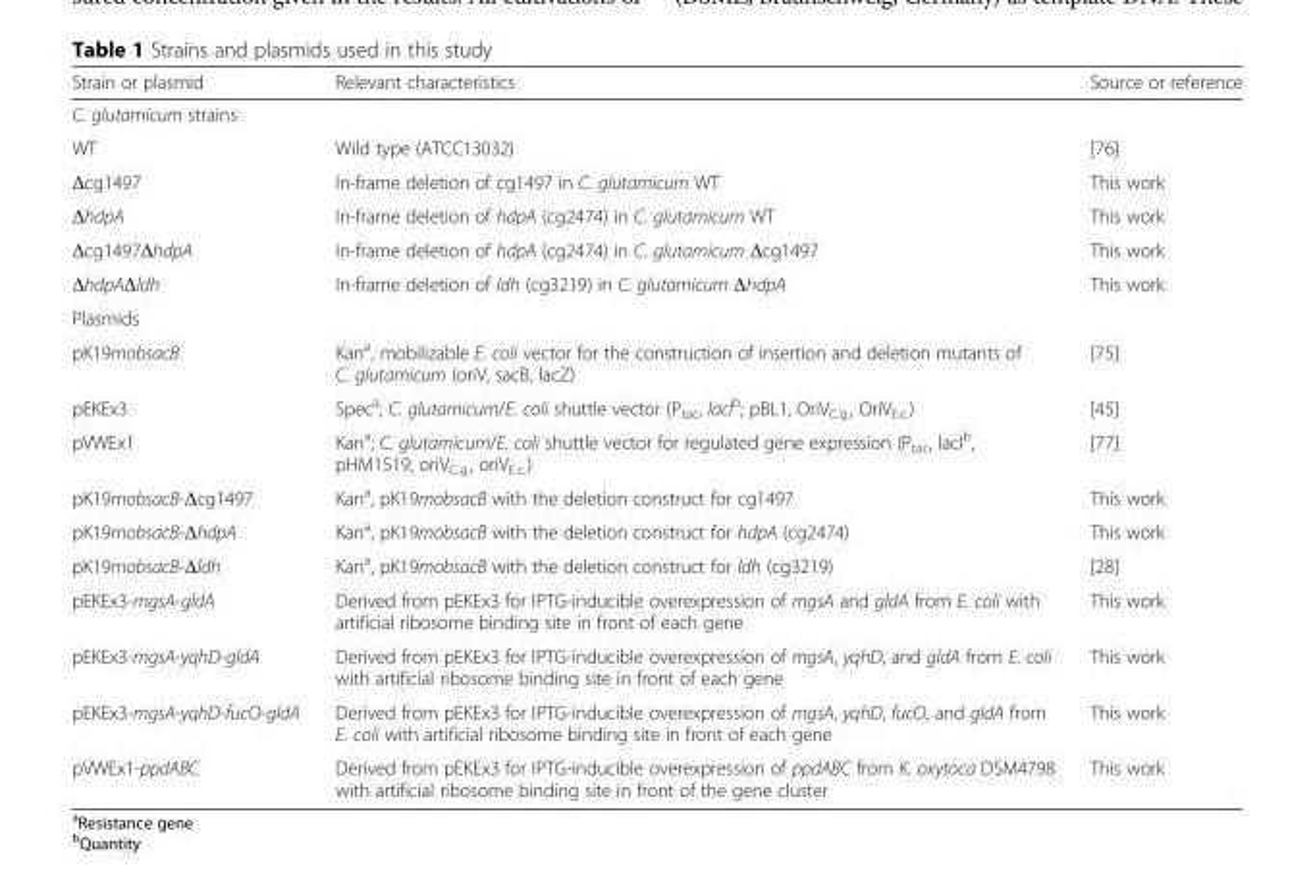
<table><thead><tr><td>Strain or plasmid</td><td>Relevant characteristics</td><td>Source or reference</td></tr></thead><tbody><tr><td colspan="3">C. glutamicum strains</td></tr><tr><td>WT</td><td>Wild type (ATCC13032)</td><td>[76]</td></tr><tr><td>Δcg1497</td><td>In-frame deletion of cg1497 in C. glutamicum WT</td><td>This work</td></tr><tr><td>ΔhdpA</td><td>In-frame deletion of hdpA (cg2474) in C. glutamicum WT</td><td>This work</td></tr><tr><td>Δcg1497ΔhdpA</td><td>In-frame deletion of hdpA (cg2474) in C. glutamicum Δcg1497</td><td>This work</td></tr><tr><td>ΔhdpAΔldh</td><td>In-frame deletion of ldh (cg3219) in C. glutamicum ΔhdpA</td><td>This work</td></tr><tr><td colspan="3">Plasmids</td></tr><tr><td>pK19mobsacB</td><td>Kan<sup>a</sup>, mobilizable E. coli vector for the construction of insertion and deletion mutants of C. glutamicum (oriV, sacB, lacZ)</td><td>[75]</td></tr><tr><td>pEKEx3</td><td>Spec<sup>a</sup>; C. glutamicum/E. coli shuttle vector (P<sub>tac</sub>, lacI<sup>b</sup>; pBL1, OriV<sub>C.g.</sub>, OriV<sub>E.c.</sub>)</td><td>[45]</td></tr><tr><td>pVWEx1</td><td>Kan<sup>a</sup>; C. glutamicum/E. coli shuttle vector for regulated gene expression (P<sub>tac</sub>, lacI<sup>b</sup>, pHM1519, oriV<sub>C.g.</sub>, oriV<sub>E.c.</sub>)</td><td>[77]</td></tr><tr><td>pK19mobsacB-Δcg1497</td><td>Kan<sup>a</sup>, pK19mobsacB with the deletion construct for cg1497</td><td>This work</td></tr><tr><td>pK19mobsacB-ΔhdpA</td><td>Kan<sup>a</sup>, pK19mobsacB with the deletion construct for hdpA (cg2474)</td><td>This work</td></tr><tr><td>pK19mobsacB-Δldh</td><td>Kan<sup>a</sup>, pK19mobsacB with the deletion construct for ldh (cg3219)</td><td>[28]</td></tr><tr><td>pEKEx3-mgsA-gldA</td><td>Derived from pEKEx3 for IPTG-inducible overexpression of mgsA and gldA from E. coli with artificial ribosome binding site in front of each gene</td><td>This work</td></tr><tr><td>pEKEx3-mgsA-yqhD-gldA</td><td>Derived from pEKEx3 for IPTG-inducible overexpression of mgsA, yqhD, and gldA from E. coli with artificial ribosome binding site in front of each gene</td><td>This work</td></tr><tr><td>pEKEx3-mgsA-yqhD-fucO-gldA</td><td>Derived from pEKEx3 for IPTG-inducible overexpression of mgsA, yqhD, fucO, and gldA from E. coli with artificial ribosome binding site in front of each gene</td><td>This work</td></tr><tr><td>pVWEx1-ppdABC</td><td>Derived from pEKEx3 for IPTG-inducible overexpression of ppdABC from K. oxytoca DSM4798 with artificial ribosome binding site in front of the gene cluster</td><td>This work</td></tr></tbody></table>